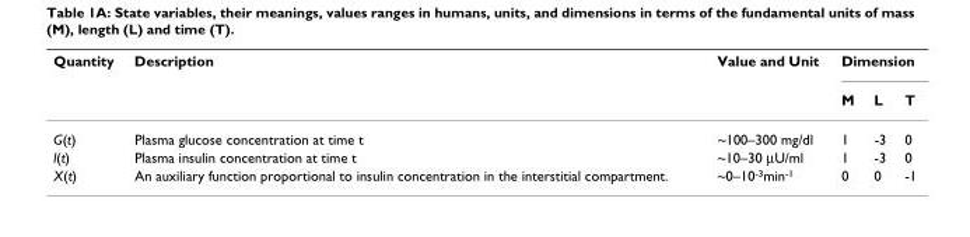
<table><thead><tr><td rowspan="2">Quantity</td><td rowspan="2">Description</td><td rowspan="2">Value and Unit</td><td colspan="3">Dimension</td></tr><tr><td>M</td><td>L</td><td>T</td></tr></thead><tbody><tr><td>G(t)</td><td>Plasma glucose concentration at time t</td><td>~100–300 mg/dl</td><td>1</td><td>-3</td><td>0</td></tr><tr><td>l(t)</td><td>Plasma insulin concentration at time t</td><td>~10–30 μU/ml</td><td>1</td><td>-3</td><td>0</td></tr><tr><td>X(t)</td><td>An auxiliary function proportional to insulin concentration in the interstitial compartment.</td><td>~0–10<sup>-3</sup>min<sup>-1</sup></td><td>0</td><td>0</td><td>-1</td></tr></tbody></table>